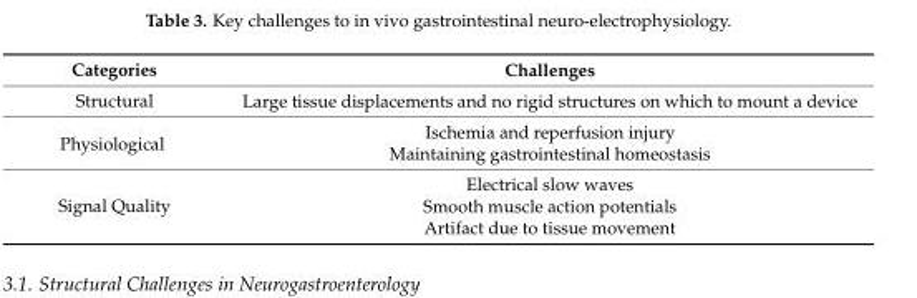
<table><thead><tr><td>Categories</td><td>Challenges</td></tr></thead><tbody><tr><td>Structural</td><td>Large tissue displacements and no rigid structures on which to mount a device</td></tr><tr><td>Physiological</td><td>Ischemia and reperfusion injury Maintaining gastrointestinal homeostasis</td></tr><tr><td>Signal Quality</td><td>Electrical slow waves Smooth muscle action potentials Artifact due to tissue movement</td></tr></tbody></table>